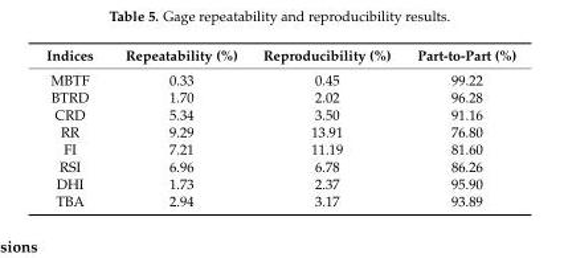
<table><thead><tr><td>Indices</td><td>Repeatability (%)</td><td>Reproducibility (%)</td><td>Part-to-Part (%)</td></tr></thead><tbody><tr><td>MBTF</td><td>0.33</td><td>0.45</td><td>99.22</td></tr><tr><td>BTRD</td><td>1.70</td><td>2.02</td><td>96.28</td></tr><tr><td>CRD</td><td>5.34</td><td>3.50</td><td>91.16</td></tr><tr><td>RR</td><td>9.29</td><td>13.91</td><td>76.80</td></tr><tr><td>FI</td><td>7.21</td><td>11.19</td><td>81.60</td></tr><tr><td>RSI</td><td>6.96</td><td>6.78</td><td>86.26</td></tr><tr><td>DHI</td><td>1.73</td><td>2.37</td><td>95.90</td></tr><tr><td>TBA</td><td>2.94</td><td>3.17</td><td>93.89</td></tr></tbody></table>